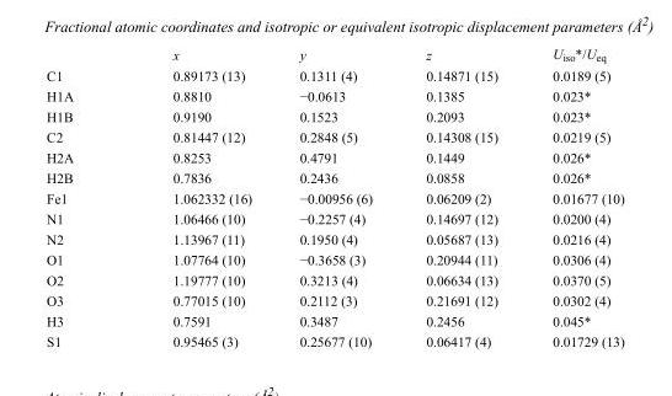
<table><thead><tr><td></td><td>x</td><td>y</td><td>z</td><td>U<sub>iso</sub>*/U<sub>eq</sub></td></tr></thead><tbody><tr><td>C1</td><td>0.89173 (13)</td><td>0.1311 (4)</td><td>0.14871 (15)</td><td>0.0189 (5)</td></tr><tr><td>H1A</td><td>0.8810</td><td>−0.0613</td><td>0.1385</td><td>0.023*</td></tr><tr><td>H1B</td><td>0.9190</td><td>0.1523</td><td>0.2093</td><td>0.023*</td></tr><tr><td>C2</td><td>0.81447 (12)</td><td>0.2848 (5)</td><td>0.14308 (15)</td><td>0.0219 (5)</td></tr><tr><td>H2A</td><td>0.8253</td><td>0.4791</td><td>0.1449</td><td>0.026*</td></tr><tr><td>H2B</td><td>0.7836</td><td>0.2436</td><td>0.0858</td><td>0.026*</td></tr><tr><td>Fe1</td><td>1.062332 (16)</td><td>−0.00956 (6)</td><td>0.06209 (2)</td><td>0.01677 (10)</td></tr><tr><td>N1</td><td>1.06466 (10)</td><td>−0.2257 (4)</td><td>0.14697 (12)</td><td>0.0200 (4)</td></tr><tr><td>N2</td><td>1.13967 (11)</td><td>0.1950 (4)</td><td>0.05687 (13)</td><td>0.0216 (4)</td></tr><tr><td>O1</td><td>1.07764 (10)</td><td>−0.3658 (3)</td><td>0.20944 (11)</td><td>0.0306 (4)</td></tr><tr><td>O2</td><td>1.19777 (10)</td><td>0.3213 (4)</td><td>0.06634 (13)</td><td>0.0370 (5)</td></tr><tr><td>O3</td><td>0.77015 (10)</td><td>0.2112 (3)</td><td>0.21691 (12)</td><td>0.0302 (4)</td></tr><tr><td>H3</td><td>0.7591</td><td>0.3487</td><td>0.2456</td><td>0.045*</td></tr><tr><td>S1</td><td>0.95465 (3)</td><td>0.25677 (10)</td><td>0.06417 (4)</td><td>0.01729 (13)</td></tr></tbody></table>